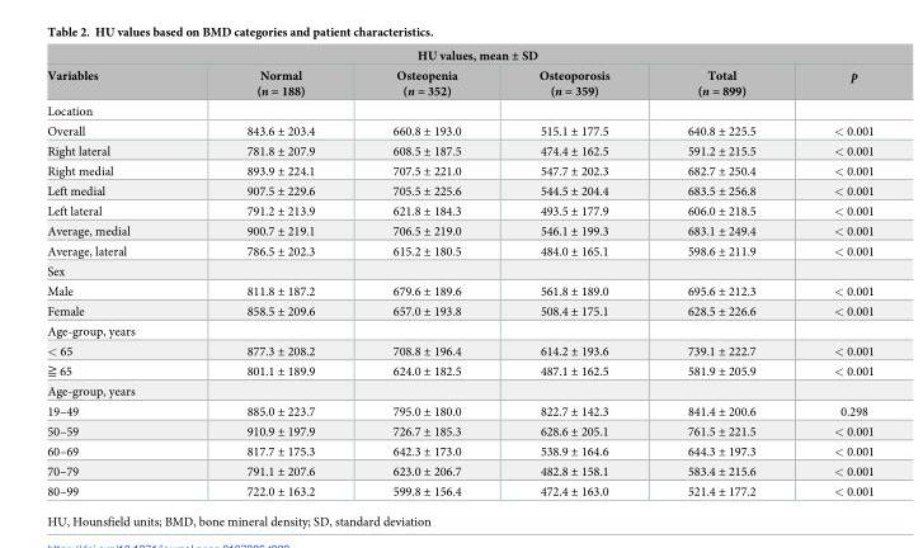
<table><thead><tr><td colspan="6">HU values, mean ± SD</td></tr><tr><td>Variables</td><td>Normal (n = 188)</td><td>Osteopenia (n = 352)</td><td>Osteoporosis (n = 359)</td><td>Total (n = 899)</td><td>p</td></tr></thead><tbody><tr><td colspan="6">Location</td></tr><tr><td>Overall</td><td>843.6 ± 203.4</td><td>660.8 ± 193.0</td><td>515.1 ± 177.5</td><td>640.8 ± 225.5</td><td>&lt; 0.001</td></tr><tr><td>Right lateral</td><td>781.8 ± 207.9</td><td>608.5 ± 187.5</td><td>474.4 ± 162.5</td><td>591.2 ± 215.5</td><td>&lt; 0.001</td></tr><tr><td>Right medial</td><td>893.9 ± 224.1</td><td>707.5 ± 221.0</td><td>547.7 ± 202.3</td><td>682.7 ± 250.4</td><td>&lt; 0.001</td></tr><tr><td>Left medial</td><td>907.5 ± 229.6</td><td>705.5 ± 225.6</td><td>544.5 ± 204.4</td><td>683.5 ± 256.8</td><td>&lt; 0.001</td></tr><tr><td>Left lateral</td><td>791.2 ± 213.9</td><td>621.8 ± 184.3</td><td>493.5 ± 177.9</td><td>606.0 ± 218.5</td><td>&lt; 0.001</td></tr><tr><td>Average, medial</td><td>900.7 ± 219.1</td><td>706.5 ± 219.0</td><td>546.1 ± 199.3</td><td>683.1 ± 249.4</td><td>&lt; 0.001</td></tr><tr><td>Average, lateral</td><td>786.5 ± 202.3</td><td>615.2 ± 180.5</td><td>484.0 ± 165.1</td><td>598.6 ± 211.9</td><td>&lt; 0.001</td></tr><tr><td colspan="6">Sex</td></tr><tr><td>Male</td><td>811.8 ± 187.2</td><td>679.6 ± 189.6</td><td>561.8 ± 189.0</td><td>695.6 ± 212.3</td><td>&lt; 0.001</td></tr><tr><td>Female</td><td>858.5 ± 209.6</td><td>657.0 ± 193.8</td><td>508.4 ± 175.1</td><td>628.5 ± 226.6</td><td>&lt; 0.001</td></tr><tr><td colspan="6">Age-group, years</td></tr><tr><td>&lt; 65</td><td>877.3 ± 208.2</td><td>708.8 ± 196.4</td><td>614.2 ± 193.6</td><td>739.1 ± 222.7</td><td>&lt; 0.001</td></tr><tr><td>≧ 65</td><td>801.1 ± 189.9</td><td>624.0 ± 182.5</td><td>487.1 ± 162.5</td><td>581.9 ± 205.9</td><td>&lt; 0.001</td></tr><tr><td colspan="6">Age-group, years</td></tr><tr><td>19–49</td><td>885.0 ± 223.7</td><td>795.0 ± 180.0</td><td>822.7 ± 142.3</td><td>841.4 ± 200.6</td><td>0.298</td></tr><tr><td>50–59</td><td>910.9 ± 197.9</td><td>726.7 ± 185.3</td><td>628.6 ± 205.1</td><td>761.5 ± 221.5</td><td>&lt; 0.001</td></tr><tr><td>60–69</td><td>817.7 ± 175.3</td><td>642.3 ± 173.0</td><td>538.9 ± 164.6</td><td>644.3 ± 197.3</td><td>&lt; 0.001</td></tr><tr><td>70–79</td><td>791.1 ± 207.6</td><td>623.0 ± 206.7</td><td>482.8 ± 158.1</td><td>583.4 ± 215.6</td><td>&lt; 0.001</td></tr><tr><td>80–99</td><td>722.0 ± 163.2</td><td>599.8 ± 156.4</td><td>472.4 ± 163.0</td><td>521.4 ± 177.2</td><td>&lt; 0.001</td></tr></tbody></table>